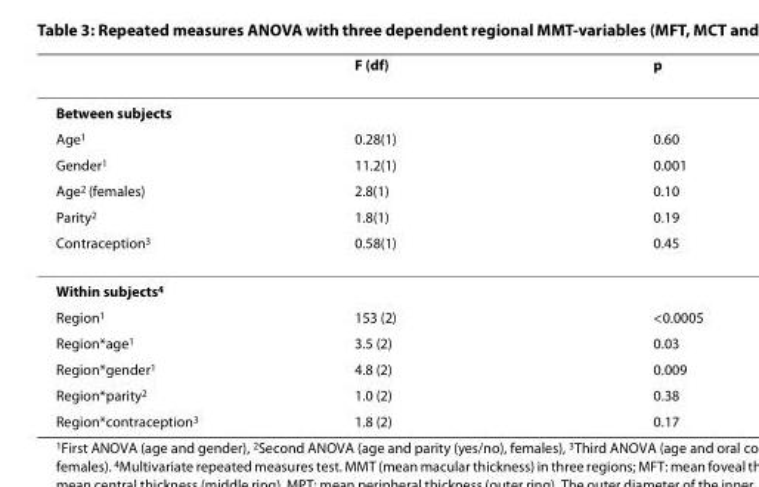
<table><thead><tr><td></td><td>F (df)</td><td>p</td></tr></thead><tbody><tr><td colspan="3">Between subjects</td></tr><tr><td>Age<sup>1</sup></td><td>0.28(1)</td><td>0.60</td></tr><tr><td>Gender<sup>1</sup></td><td>11.2(1)</td><td>0.001</td></tr><tr><td>Age<sup>2</sup> (females)</td><td>2.8(1)</td><td>0.10</td></tr><tr><td>Parity<sup>2</sup></td><td>1.8(1)</td><td>0.19</td></tr><tr><td>Contraception<sup>3</sup></td><td>0.58(1)</td><td>0.45</td></tr><tr><td colspan="3">Within subjects<sup>4</sup></td></tr><tr><td>Region<sup>1</sup></td><td>153 (2)</td><td>&lt;0.0005</td></tr><tr><td>Region*age<sup>1</sup></td><td>3.5 (2)</td><td>0.03</td></tr><tr><td>Region*gender<sup>1</sup></td><td>4.8 (2)</td><td>0.009</td></tr><tr><td>Region*parity<sup>2</sup></td><td>1.0 (2)</td><td>0.38</td></tr><tr><td>Region*contraception<sup>3</sup></td><td>1.8 (2)</td><td>0.17</td></tr></tbody></table>